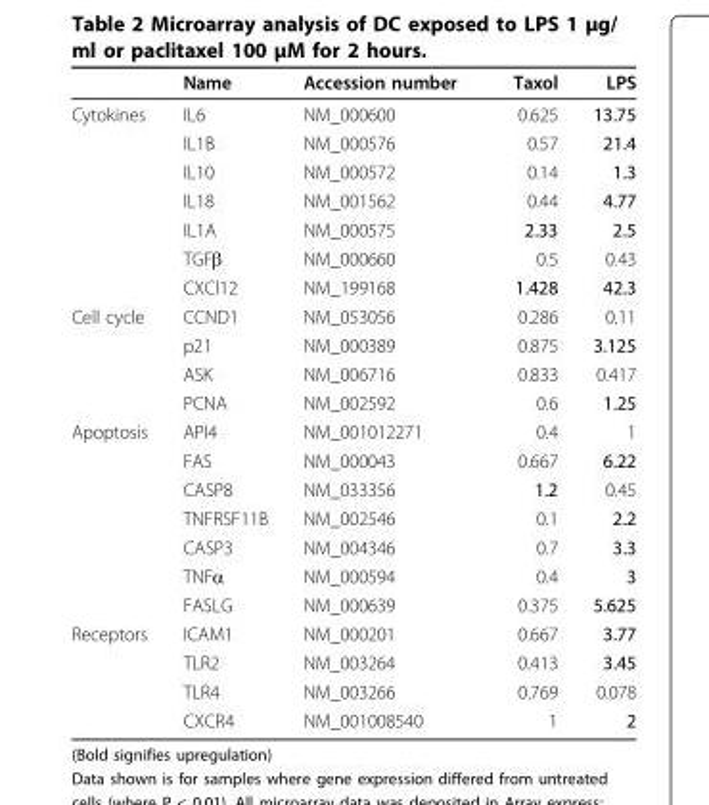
<table><thead><tr><td></td><td>Name</td><td>Accession number</td><td>Taxol</td><td>LPS</td></tr></thead><tbody><tr><td rowspan="7">Cytokines</td><td>IL6</td><td>NM_000600</td><td>0.625</td><td>13.75</td></tr><tr><td>IL1B</td><td>NM_000576</td><td>0.57</td><td>21.4</td></tr><tr><td>IL10</td><td>NM_000572</td><td>0.14</td><td>1.3</td></tr><tr><td>IL18</td><td>NM_001562</td><td>0.44</td><td>4.77</td></tr><tr><td>IL1A</td><td>NM_000575</td><td>2.33</td><td>2.5</td></tr><tr><td>TGFβ</td><td>NM_000660</td><td>0.5</td><td>0.43</td></tr><tr><td>CXCl12</td><td>NM_199168</td><td>1.428</td><td>42.3</td></tr><tr><td rowspan="4">Cell cycle</td><td>CCND1</td><td>NM_053056</td><td>0.286</td><td>0.11</td></tr><tr><td>p21</td><td>NM_000389</td><td>0.875</td><td>3.125</td></tr><tr><td>ASK</td><td>NM_006716</td><td>0.833</td><td>0.417</td></tr><tr><td>PCNA</td><td>NM_002592</td><td>0.6</td><td>1.25</td></tr><tr><td rowspan="7">Apoptosis</td><td>API4</td><td>NM_001012271</td><td>0.4</td><td>1</td></tr><tr><td>FAS</td><td>NM_000043</td><td>0.667</td><td>6.22</td></tr><tr><td>CASP8</td><td>NM_033356</td><td>1.2</td><td>0.45</td></tr><tr><td>TNFRSF11B</td><td>NM_002546</td><td>0.1</td><td>2.2</td></tr><tr><td>CASP3</td><td>NM_004346</td><td>0.7</td><td>3.3</td></tr><tr><td>TNFα</td><td>NM_000594</td><td>0.4</td><td>3</td></tr><tr><td>FASLG</td><td>NM_000639</td><td>0.375</td><td>5.625</td></tr><tr><td rowspan="4">Receptors</td><td>ICAM1</td><td>NM_000201</td><td>0.667</td><td>3.77</td></tr><tr><td>TLR2</td><td>NM_003264</td><td>0.413</td><td>3.45</td></tr><tr><td>TLR4</td><td>NM_003266</td><td>0.769</td><td>0.078</td></tr><tr><td>CXCR4</td><td>NM_001008540</td><td>1</td><td>2</td></tr></tbody></table>